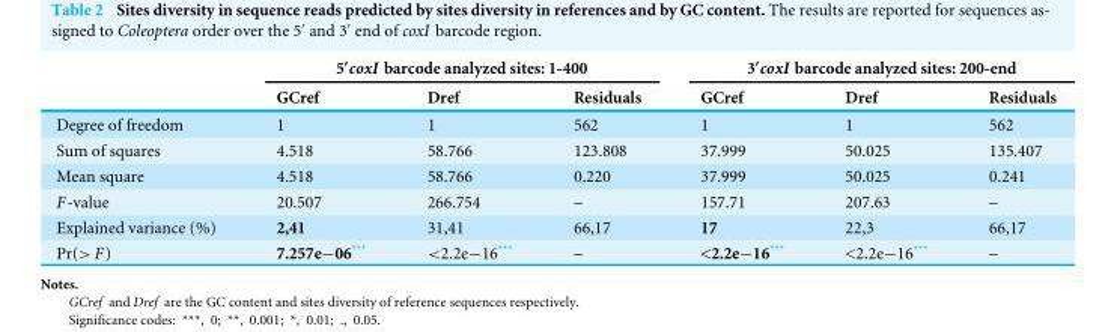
<table><thead><tr><td rowspan="2"></td><td colspan="3">5′coxI barcode analyzed sites: 1-400</td><td colspan="3">3′coxI barcode analyzed sites: 200-end</td></tr><tr><td>GCref</td><td>Dref</td><td>Residuals</td><td>GCref</td><td>Dref</td><td>Residuals</td></tr></thead><tbody><tr><td>Degree of freedom</td><td>1</td><td>1</td><td>562</td><td>1</td><td>1</td><td>562</td></tr><tr><td>Sum of squares</td><td>4.518</td><td>58.766</td><td>123.808</td><td>37.999</td><td>50.025</td><td>135.407</td></tr><tr><td>Mean square</td><td>4.518</td><td>58.766</td><td>0.220</td><td>37.999</td><td>50.025</td><td>0.241</td></tr><tr><td>F-value</td><td>20.507</td><td>266.754</td><td>–</td><td>157.71</td><td>207.63</td><td>–</td></tr><tr><td>Explained variance (%)</td><td>2,41</td><td>31,41</td><td>66,17</td><td>17</td><td>22,3</td><td>66,17</td></tr><tr><td>Pr(&gt; F)</td><td>7.257e−06***</td><td>&lt;2.2e−16***</td><td>–</td><td>&lt;2.2e−16***</td><td>&lt;2.2e−16***</td><td>–</td></tr></tbody></table>